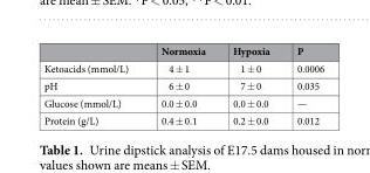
<table><thead><tr><td></td><td>Normoxia</td><td>Hypoxia</td><td>P</td></tr></thead><tbody><tr><td>Ketoacids (mmol/L)</td><td>4 ± 1</td><td>1 ± 0</td><td>0.0006</td></tr><tr><td>pH</td><td>6 ± 0</td><td>7 ± 0</td><td>0.035</td></tr><tr><td>Glucose (mmol/L)</td><td>0.0 ± 0.0</td><td>0.0 ± 0.0</td><td>—</td></tr><tr><td>Protein (g/L)</td><td>0.4 ± 0.1</td><td>0.2 ± 0.0</td><td>0.012</td></tr></tbody></table>